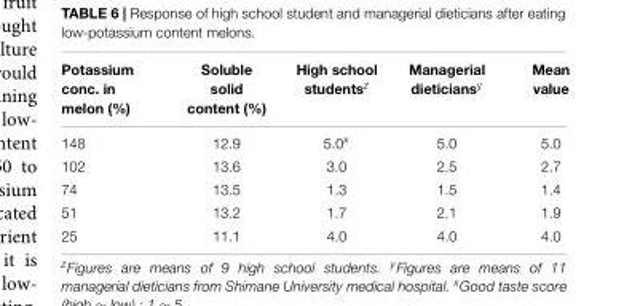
<table><thead><tr><td>Potassium conc. in melon (%)</td><td>Soluble solid content (%)</td><td>High school students<sup>z</sup></td><td>Managerial dieticians<sup>y</sup></td><td>Mean value</td></tr></thead><tbody><tr><td>148</td><td>12.9</td><td>5.0<sup>x</sup></td><td>5.0</td><td>5.0</td></tr><tr><td>102</td><td>13.6</td><td>3.0</td><td>2.5</td><td>2.7</td></tr><tr><td>74</td><td>13.5</td><td>1.3</td><td>1.5</td><td>1.4</td></tr><tr><td>51</td><td>13.2</td><td>1.7</td><td>2.1</td><td>1.9</td></tr><tr><td>25</td><td>11.1</td><td>4.0</td><td>4.0</td><td>4.0</td></tr></tbody></table>